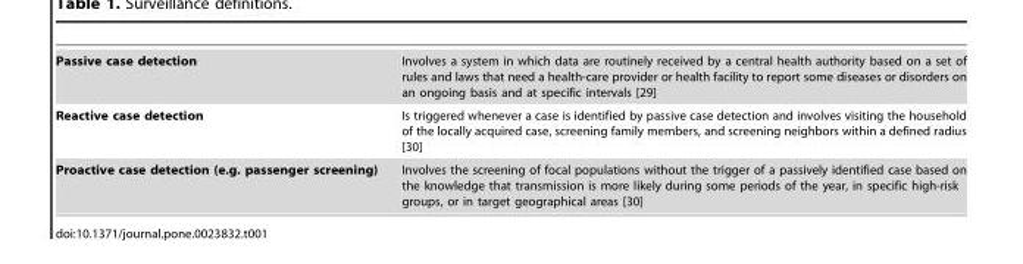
<table><tbody><tr><td>Passive case detection</td><td>Involves a system in which data are routinely received by a central health authority based on a set of rules and laws that need a health-care provider or health facility to report some diseases or disorders on an ongoing basis and at specific intervals [29]</td></tr><tr><td>Reactive case detection</td><td>Is triggered whenever a case is identified by passive case detection and involves visiting the household of the locally acquired case, screening family members, and screening neighbors within a defined radius [30]</td></tr><tr><td>Proactive case detection (e.g. passenger screening)</td><td>Involves the screening of focal populations without the trigger of a passively identified case based on the knowledge that transmission is more likely during some periods of the year, in specific high-risk groups, or in target geographical areas [30]</td></tr></tbody></table>